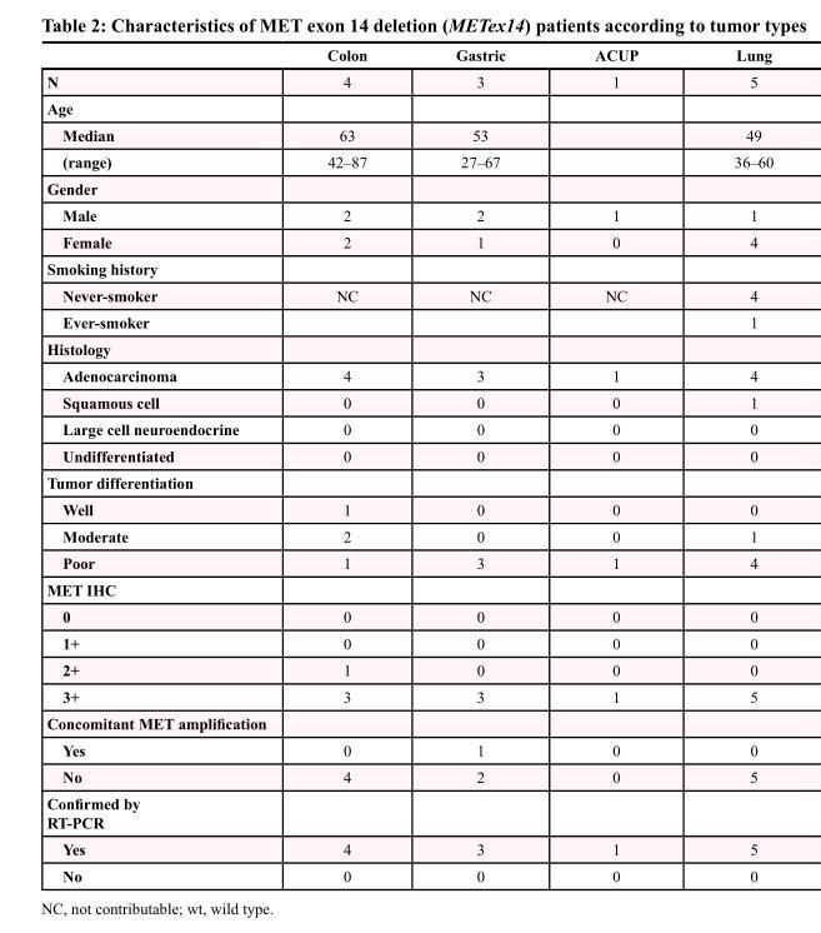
<table><thead><tr><td></td><td>Colon</td><td>Gastric</td><td>ACUP</td><td>Lung</td></tr></thead><tbody><tr><td>N</td><td>4</td><td>3</td><td>1</td><td>5</td></tr><tr><td colspan="5">Age</td></tr><tr><td>Median</td><td>63</td><td>53</td><td></td><td>49</td></tr><tr><td>(range)</td><td>42–87</td><td>27–67</td><td></td><td>36–60</td></tr><tr><td colspan="5">Gender</td></tr><tr><td>Male</td><td>2</td><td>2</td><td>1</td><td>1</td></tr><tr><td>Female</td><td>2</td><td>1</td><td>0</td><td>4</td></tr><tr><td colspan="5">Smoking history</td></tr><tr><td>Never-smoker</td><td>NC</td><td>NC</td><td>NC</td><td>4</td></tr><tr><td>Ever-smoker</td><td></td><td></td><td></td><td>1</td></tr><tr><td colspan="5">Histology</td></tr><tr><td>Adenocarcinoma</td><td>4</td><td>3</td><td>1</td><td>4</td></tr><tr><td>Squamous cell</td><td>0</td><td>0</td><td>0</td><td>1</td></tr><tr><td>Large cell neuroendocrine</td><td>0</td><td>0</td><td>0</td><td>0</td></tr><tr><td>Undifferentiated</td><td>0</td><td>0</td><td>0</td><td>0</td></tr><tr><td colspan="5">Tumor differentiation</td></tr><tr><td>Well</td><td>1</td><td>0</td><td>0</td><td>0</td></tr><tr><td>Moderate</td><td>2</td><td>0</td><td>0</td><td>1</td></tr><tr><td>Poor</td><td>1</td><td>3</td><td>1</td><td>4</td></tr><tr><td colspan="5">MET IHC</td></tr><tr><td>0</td><td>0</td><td>0</td><td>0</td><td>0</td></tr><tr><td>1+</td><td>0</td><td>0</td><td>0</td><td>0</td></tr><tr><td>2+</td><td>1</td><td>0</td><td>0</td><td>0</td></tr><tr><td>3+</td><td>3</td><td>3</td><td>1</td><td>5</td></tr><tr><td colspan="5">Concomitant MET amplification</td></tr><tr><td>Yes</td><td>0</td><td>1</td><td>0</td><td>0</td></tr><tr><td>No</td><td>4</td><td>2</td><td>0</td><td>5</td></tr><tr><td colspan="5">Confirmed by RT-PCR</td></tr><tr><td>Yes</td><td>4</td><td>3</td><td>1</td><td>5</td></tr><tr><td>No</td><td>0</td><td>0</td><td>0</td><td>0</td></tr></tbody></table>